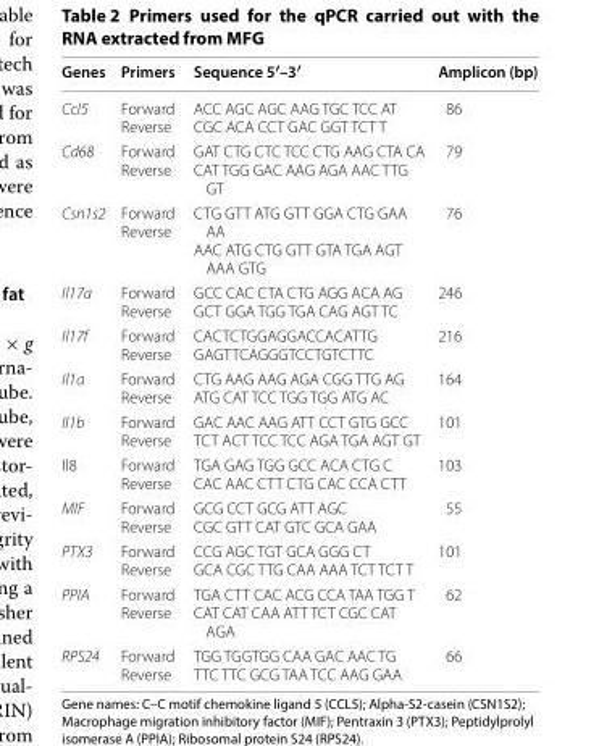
<table><thead><tr><td>Genes</td><td>Primers</td><td>Sequence 5′–3′</td><td>Amplicon (bp)</td></tr></thead><tbody><tr><td>Ccl5</td><td>Forward Reverse</td><td>ACC AGC AGC AAG TGC TCC AT CGC ACA CCT GAC GGT TCT T</td><td>86</td></tr><tr><td>Cd68</td><td>Forward Reverse</td><td>GAT CTG CTC TCC CTG AAG CTA CA CAT TGG GAC AAG AGA AAC TTG GT</td><td>79</td></tr><tr><td>Csn1s2</td><td>Forward Reverse</td><td>CTG GTT ATG GTT GGA CTG GAA AA AAC ATG CTG GTT GTA TGA AGT AAA GTG</td><td>76</td></tr><tr><td>Il17a</td><td>Forward Reverse</td><td>GCC CAC CTA CTG AGG ACA AG GCT GGA TGG TGA CAG AGT TC</td><td>246</td></tr><tr><td>Il17f</td><td>Forward Reverse</td><td>CAC TCT GGA GGA CCA CAT TG GAG TTC AGG GTC CTG TCT TC</td><td>216</td></tr><tr><td>Il1a</td><td>Forward Reverse</td><td>CTG AAG AAG AGA CGG TTG AG ATG CAT TCC TGG TGG ATG AC</td><td>164</td></tr><tr><td>Il1b</td><td>Forward Reverse</td><td>GAC AAC AAG ATT CCT GTG GCC TCT ACT TCC TCC AGA TGA AGT GT</td><td>101</td></tr><tr><td>Il8</td><td>Forward Reverse</td><td>TGA GAG TGG GCC ACA CTG C CAC AAC CTT CTG CAC CCA CTT</td><td>103</td></tr><tr><td>MIF</td><td>Forward Reverse</td><td>GCG CCT GCG ATT AGC CGC GTT CAT GTC GCA GAA</td><td>55</td></tr><tr><td>PTX3</td><td>Forward Reverse</td><td>CCG AGC TGT GCA GGG CT GCA CGC TTG CAA AAA TCT TCT T</td><td>101</td></tr><tr><td>PPIA</td><td>Forward Reverse</td><td>TGA CTT CAC ACG CCA TAA TGG T CAT CAT CAA ATT TCT CGC CAT AGA</td><td>62</td></tr><tr><td>RPS24</td><td>Forward Reverse</td><td>TGG TGG TGG CAA GAC AAC TG TTC TTC GCG TAA TCC AAG GAA</td><td>66</td></tr></tbody></table>